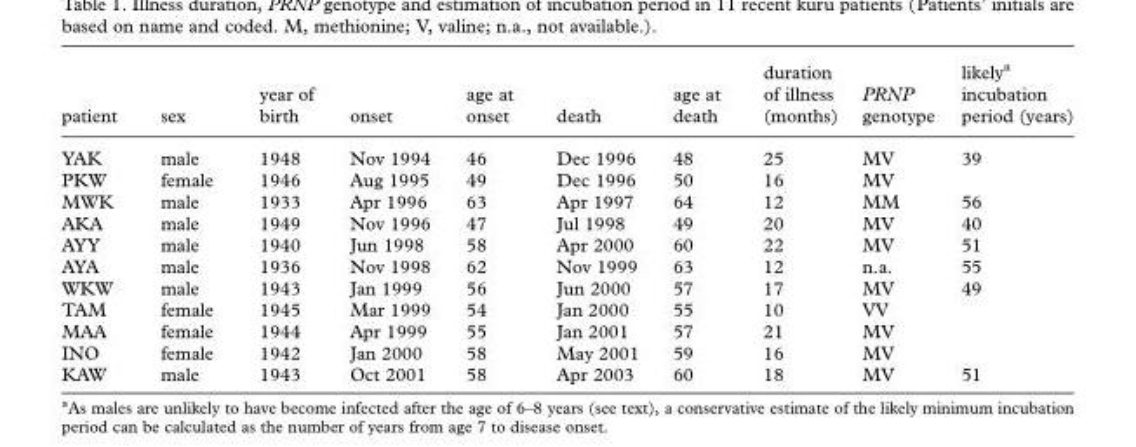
<table><thead><tr><td>patient</td><td>sex</td><td>year of birth</td><td>onset</td><td>age at onset</td><td>death</td><td>age at death</td><td>duration of illness (months)</td><td>PRNP genotype</td><td>likely<sup>a</sup> incubation period (years)</td></tr></thead><tbody><tr><td>YAK</td><td>male</td><td>1948</td><td>Nov 1994</td><td>46</td><td>Dec 1996</td><td>48</td><td>25</td><td>MV</td><td>39</td></tr><tr><td>PKW</td><td>female</td><td>1946</td><td>Aug 1995</td><td>49</td><td>Dec 1996</td><td>50</td><td>16</td><td>MV</td><td></td></tr><tr><td>MWK</td><td>male</td><td>1933</td><td>Apr 1996</td><td>63</td><td>Apr 1997</td><td>64</td><td>12</td><td>MM</td><td>56</td></tr><tr><td>AKA</td><td>male</td><td>1949</td><td>Nov 1996</td><td>47</td><td>Jul 1998</td><td>49</td><td>20</td><td>MV</td><td>40</td></tr><tr><td>AYY</td><td>male</td><td>1940</td><td>Jun 1998</td><td>58</td><td>Apr 2000</td><td>60</td><td>22</td><td>MV</td><td>51</td></tr><tr><td>AYA</td><td>male</td><td>1936</td><td>Nov 1998</td><td>62</td><td>Nov 1999</td><td>63</td><td>12</td><td>n.a.</td><td>55</td></tr><tr><td>WKW</td><td>male</td><td>1943</td><td>Jan 1999</td><td>56</td><td>Jun 2000</td><td>57</td><td>17</td><td>MV</td><td>49</td></tr><tr><td>TAM</td><td>female</td><td>1945</td><td>Mar 1999</td><td>54</td><td>Jan 2000</td><td>55</td><td>10</td><td>VV</td><td></td></tr><tr><td>MAA</td><td>female</td><td>1944</td><td>Apr 1999</td><td>55</td><td>Jan 2001</td><td>57</td><td>21</td><td>MV</td><td></td></tr><tr><td>INO</td><td>female</td><td>1942</td><td>Jan 2000</td><td>58</td><td>May 2001</td><td>59</td><td>16</td><td>MV</td><td></td></tr><tr><td>KAW</td><td>male</td><td>1943</td><td>Oct 2001</td><td>58</td><td>Apr 2003</td><td>60</td><td>18</td><td>MV</td><td>51</td></tr></tbody></table>